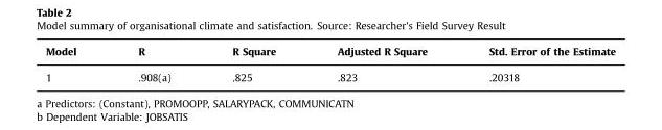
<table><thead><tr><td>Model</td><td>R</td><td>R Square</td><td>Adjusted R Square</td><td>Std. Error of the Estimate</td></tr></thead><tbody><tr><td>1</td><td>.908(a)</td><td>.825</td><td>.823</td><td>.20318</td></tr></tbody></table>